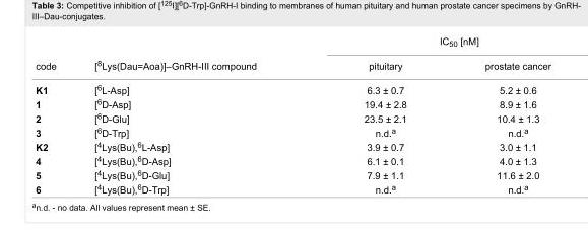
<table><thead><tr><td rowspan="2">code</td><td rowspan="2">[<sup>8</sup>Lys(Dau=Aoa)]–GnRH-III compound</td><td colspan="2">IC<sub>50</sub> [nM]</td></tr><tr><td>pituitary</td><td>prostate cancer</td></tr></thead><tbody><tr><td>K1</td><td>[<sup>6</sup>L-Asp]</td><td>6.3 ± 0.7</td><td>5.2 ± 0.6</td></tr><tr><td>1</td><td>[<sup>6</sup>D-Asp]</td><td>19.4 ± 2.8</td><td>8.9 ± 1.6</td></tr><tr><td>2</td><td>[<sup>6</sup>D-Glu]</td><td>23.5 ± 2.1</td><td>10.4 ± 1.3</td></tr><tr><td>3</td><td>[<sup>6</sup>D-Trp]</td><td>n.d.<sup>a</sup></td><td>n.d.<sup>a</sup></td></tr><tr><td>K2</td><td>[<sup>4</sup>Lys(Bu),<sup>6</sup>L-Asp]</td><td>3.9 ± 0.7</td><td>3.0 ± 1.1</td></tr><tr><td>4</td><td>[<sup>4</sup>Lys(Bu),<sup>6</sup>D-Asp]</td><td>6.1 ± 0.1</td><td>4.0 ± 1.3</td></tr><tr><td>5</td><td>[<sup>4</sup>Lys(Bu),<sup>6</sup>D-Glu]</td><td>7.9 ± 1.1</td><td>11.6 ± 2.0</td></tr><tr><td>6</td><td>[<sup>4</sup>Lys(Bu),<sup>6</sup>D-Trp]</td><td>n.d.<sup>a</sup></td><td>n.d.<sup>a</sup></td></tr></tbody></table>